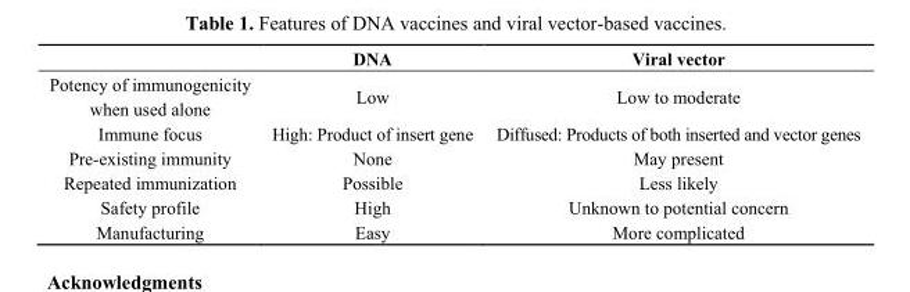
<table><thead><tr><td></td><td>DNA</td><td>Viral vector</td></tr></thead><tbody><tr><td>Potency of immunogenicity when used alone</td><td>Low</td><td>Low to moderate</td></tr><tr><td>Immune focus</td><td>High: Product of insert gene</td><td>Diffused: Products of both inserted and vector genes</td></tr><tr><td>Pre-existing immunity</td><td>None</td><td>May present</td></tr><tr><td>Repeated immunization</td><td>Possible</td><td>Less likely</td></tr><tr><td>Safety profile</td><td>High</td><td>Unknown to potential concern</td></tr><tr><td>Manufacturing</td><td>Easy</td><td>More complicated</td></tr></tbody></table>